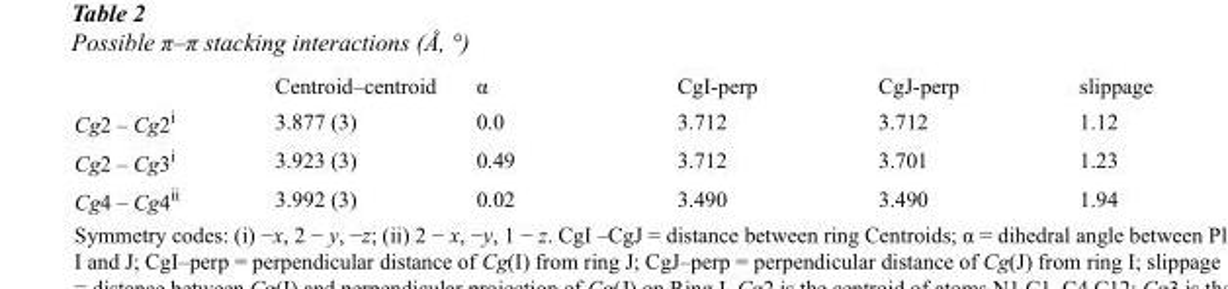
<table><thead><tr><td></td><td>Centroid–centroid</td><td>α</td><td>CgI-perp</td><td>CgJ-perp</td><td>slippage</td></tr></thead><tbody><tr><td>Cg2 – Cg2<sup>i</sup></td><td>3.877 (3)</td><td>0.0</td><td>3.712</td><td>3.712</td><td>1.12</td></tr><tr><td>Cg2 – Cg3<sup>i</sup></td><td>3.923 (3)</td><td>0.49</td><td>3.712</td><td>3.701</td><td>1.23</td></tr><tr><td>Cg4 – Cg4<sup>ii</sup></td><td>3.992 (3)</td><td>0.02</td><td>3.490</td><td>3.490</td><td>1.94</td></tr></tbody></table>